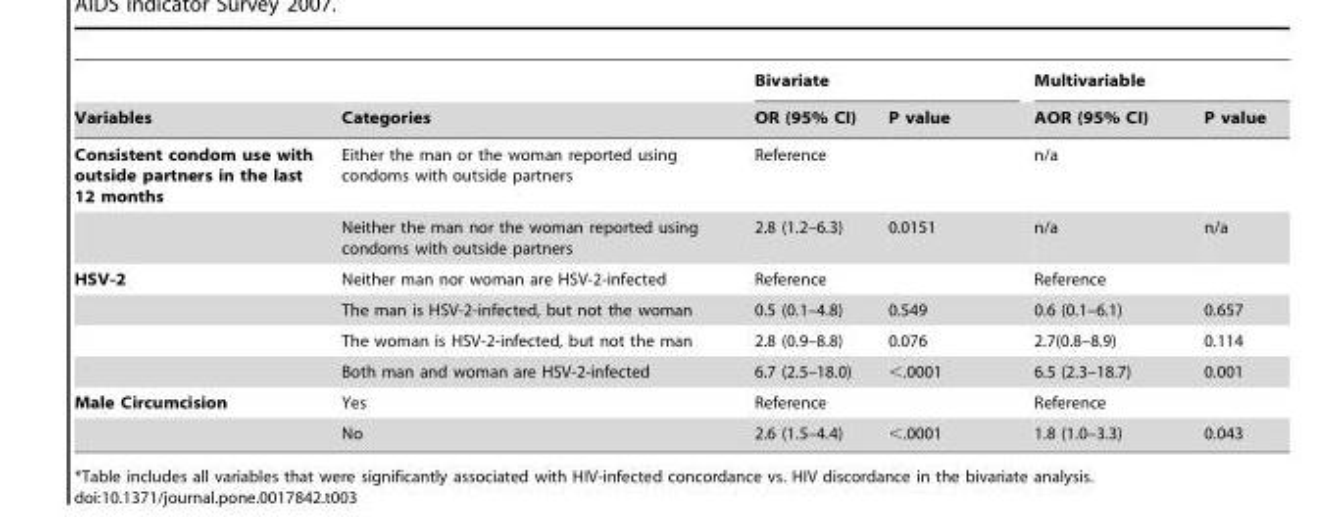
<table><thead><tr><td rowspan="2">Variables</td><td rowspan="2">Categories</td><td colspan="2">Bivariate</td><td colspan="2">Multivariable</td></tr><tr><td>OR (95% CI)</td><td>P value</td><td>AOR (95% CI)</td><td>P value</td></tr></thead><tbody><tr><td rowspan="2">Consistent condom use with outside partners in the last 12 months</td><td>Either the man or the woman reported using condoms with outside partners</td><td>Reference</td><td></td><td>n/a</td><td></td></tr><tr><td>Neither the man nor the woman reported using condoms with outside partners</td><td>2.8 (1.2–6.3)</td><td>0.0151</td><td>n/a</td><td>n/a</td></tr><tr><td rowspan="4">HSV-2</td><td>Neither man nor woman are HSV-2-infected</td><td>Reference</td><td></td><td>Reference</td><td></td></tr><tr><td>The man is HSV-2-infected, but not the woman</td><td>0.5 (0.1–4.8)</td><td>0.549</td><td>0.6 (0.1–6.1)</td><td>0.657</td></tr><tr><td>The woman is HSV-2-infected, but not the man</td><td>2.8 (0.9–8.8)</td><td>0.076</td><td>2.7(0.8–8.9)</td><td>0.114</td></tr><tr><td>Both man and woman are HSV-2-infected</td><td>6.7 (2.5–18.0)</td><td>&lt;.0001</td><td>6.5 (2.3–18.7)</td><td>0.001</td></tr><tr><td rowspan="2">Male Circumcision</td><td>Yes</td><td>Reference</td><td></td><td>Reference</td><td></td></tr><tr><td>No</td><td>2.6 (1.5–4.4)</td><td>&lt;.0001</td><td>1.8 (1.0–3.3)</td><td>0.043</td></tr></tbody></table>